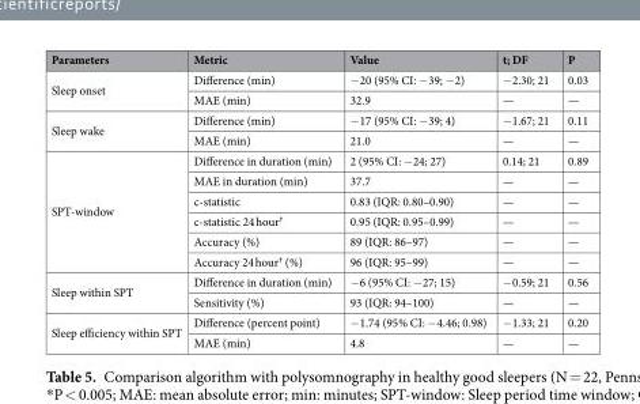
<table><thead><tr><td>Parameters</td><td>Metric</td><td>Value</td><td>t; DF</td><td>P</td></tr></thead><tbody><tr><td rowspan="2">Sleep onset</td><td>Difference (min)</td><td>−20 (95% CI: −39; −2)</td><td>−2.30; 21</td><td>0.03</td></tr><tr><td>MAE (min)</td><td>32.9</td><td>—</td><td>—</td></tr><tr><td rowspan="2">Sleep wake</td><td>Difference (min)</td><td>−17 (95% CI: −39; 4)</td><td>−1.67; 21</td><td>0.11</td></tr><tr><td>MAE (min)</td><td>21.0</td><td>—</td><td>—</td></tr><tr><td rowspan="6">SPT-window</td><td>Difference in duration (min)</td><td>2 (95% CI: −24; 27)</td><td>0.14; 21</td><td>0.89</td></tr><tr><td>MAE in duration (min)</td><td>37.7</td><td>—</td><td>—</td></tr><tr><td>c-statistic</td><td>0.83 (IQR: 0.80–0.90)</td><td>—</td><td>—</td></tr><tr><td>c-statistic 24 hour<sup>†</sup></td><td>0.95 (IQR: 0.95–0.99)</td><td>—</td><td>—</td></tr><tr><td>Accuracy (%)</td><td>89 (IQR: 86–97)</td><td>—</td><td>—</td></tr><tr><td>Accuracy 24 hour<sup>†</sup> (%)</td><td>96 (IQR: 95–99)</td><td>—</td><td>—</td></tr><tr><td rowspan="2">Sleep within SPT</td><td>Difference in duration (min)</td><td>−6 (95% CI: −27; 15)</td><td>−0.59; 21</td><td>0.56</td></tr><tr><td>Sensitivity (%)</td><td>93 (IQR: 94–100)</td><td>—</td><td>—</td></tr><tr><td rowspan="2">Sleep efficiency within SPT</td><td>Difference (percent point)</td><td>−1.74 (95% CI: −4.46; 0.98)</td><td>−1.33; 21</td><td>0.20</td></tr><tr><td>MAE (min)</td><td>4.8</td><td>—</td><td>—</td></tr></tbody></table>